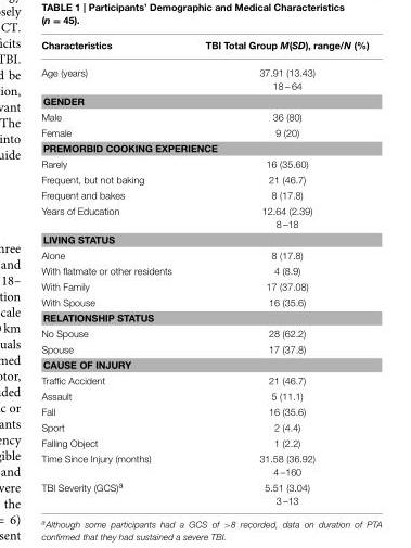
<table><thead><tr><td>Characteristics</td><td>TBI Total Group M(SD), range/N (%)</td></tr></thead><tbody><tr><td>Age (years)</td><td>37.91 (13.43) 18 – 64</td></tr><tr><td colspan="2">GENDER</td></tr><tr><td>Male</td><td>36 (80)</td></tr><tr><td>Female</td><td>9 (20)</td></tr><tr><td colspan="2">PREMORBID COOKING EXPERIENCE</td></tr><tr><td>Rarely</td><td>16 (35.60)</td></tr><tr><td>Frequent, but not baking</td><td>21 (46.7)</td></tr><tr><td>Frequent and bakes</td><td>8 (17.8)</td></tr><tr><td>Years of Education</td><td>12.64 (2.39) 8 –18</td></tr><tr><td colspan="2">LIVING STATUS</td></tr><tr><td>Alone</td><td>8 (17.8)</td></tr><tr><td>With flatmate or other residents</td><td>4 (8.9)</td></tr><tr><td>With Family</td><td>17 (37.08)</td></tr><tr><td>With Spouse</td><td>16 (35.6)</td></tr><tr><td colspan="2">RELATIONSHIP STATUS</td></tr><tr><td>No Spouse</td><td>28 (62.2)</td></tr><tr><td>Spouse</td><td>17 (37.8)</td></tr><tr><td colspan="2">CAUSE OF INJURY</td></tr><tr><td>Traffic Accident</td><td>21 (46.7)</td></tr><tr><td>Assault</td><td>5 (11.1)</td></tr><tr><td>Fall</td><td>16 (35.6)</td></tr><tr><td>Sport</td><td>2 (4.4)</td></tr><tr><td>Falling Object</td><td>1 (2.2)</td></tr><tr><td>Time Since Injury (months)</td><td>31.58 (36.92) 4 –160</td></tr><tr><td>TBI Severity (GCS)<sup>a</sup></td><td>5.51 (3.04) 3 –13</td></tr></tbody></table>